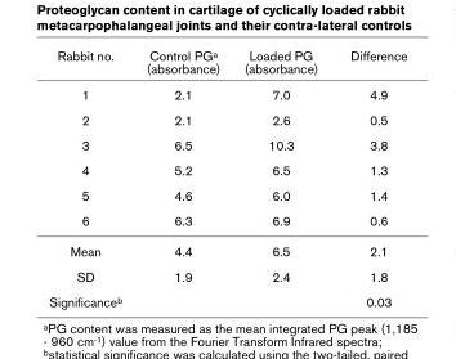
<table><thead><tr><td>Rabbit no.</td><td>Control PGa (absorbance)</td><td>Loaded PG (absorbance)</td><td>Difference</td></tr></thead><tbody><tr><td>1</td><td>2.1</td><td>7.0</td><td>4.9</td></tr><tr><td>2</td><td>2.1</td><td>2.6</td><td>0.5</td></tr><tr><td>3</td><td>6.5</td><td>10.3</td><td>3.8</td></tr><tr><td>4</td><td>5.2</td><td>6.5</td><td>1.3</td></tr><tr><td>5</td><td>4.6</td><td>6.0</td><td>1.4</td></tr><tr><td>6</td><td>6.3</td><td>6.9</td><td>0.6</td></tr><tr><td>Mean</td><td>4.4</td><td>6.5</td><td>2.1</td></tr><tr><td>SD</td><td>1.9</td><td>2.4</td><td>1.8</td></tr><tr><td>Significanceb</td><td></td><td></td><td>0.03</td></tr></tbody></table>